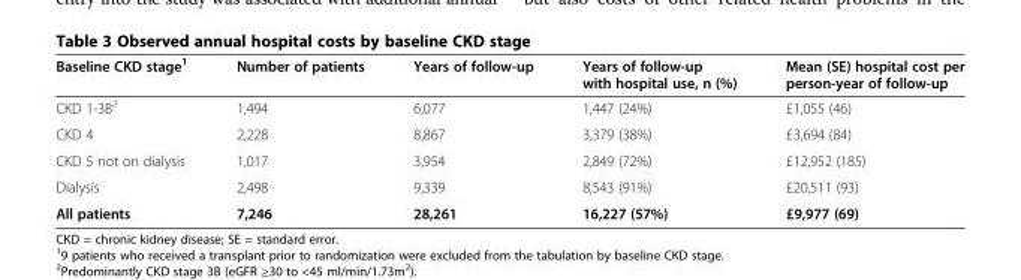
<table><thead><tr><td>Baseline CKD stage<sup>1</sup></td><td>Number of patients</td><td>Years of follow-up</td><td>Years of follow-up with hospital use, n (%)</td><td>Mean (SE) hospital cost per person-year of follow-up</td></tr></thead><tbody><tr><td>CKD 1-3B<sup>2</sup></td><td>1,494</td><td>6,077</td><td>1,447 (24%)</td><td>£1,055 (46)</td></tr><tr><td>CKD 4</td><td>2,228</td><td>8,867</td><td>3,379 (38%)</td><td>£3,694 (84)</td></tr><tr><td>CKD 5 not on dialysis</td><td>1,017</td><td>3,954</td><td>2,849 (72%)</td><td>£12,952 (185)</td></tr><tr><td>Dialysis</td><td>2,498</td><td>9,339</td><td>8,543 (91%)</td><td>£20,511 (93)</td></tr><tr><td>All patients</td><td>7,246</td><td>28,261</td><td>16,227 (57%)</td><td>£9,977 (69)</td></tr></tbody></table>